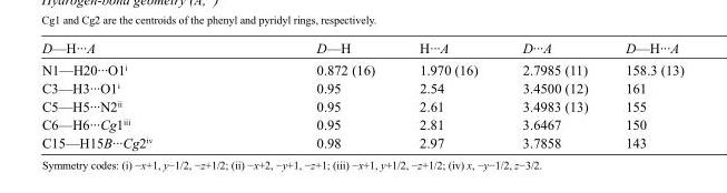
<table><tbody><tr><td>D—H···A</td><td>D—H</td><td>H···A</td><td>D···A</td><td>D—H···A</td></tr><tr><td>N1—H20···O1<sup>i</sup></td><td>0.872 (16)</td><td>1.970 (16)</td><td>2.7985 (11)</td><td>158.3 (13)</td></tr><tr><td>C3—H3···O1<sup>i</sup></td><td>0.95</td><td>2.54</td><td>3.4500 (12)</td><td>161</td></tr><tr><td>C5—H5···N2<sup>ii</sup></td><td>0.95</td><td>2.61</td><td>3.4983 (13)</td><td>155</td></tr><tr><td>C6—H6···Cg1<sup>iii</sup></td><td>0.95</td><td>2.81</td><td>3.6467</td><td>150</td></tr><tr><td>C15—H15B···Cg2<sup>iv</sup></td><td>0.98</td><td>2.97</td><td>3.7858</td><td>143</td></tr></tbody></table>